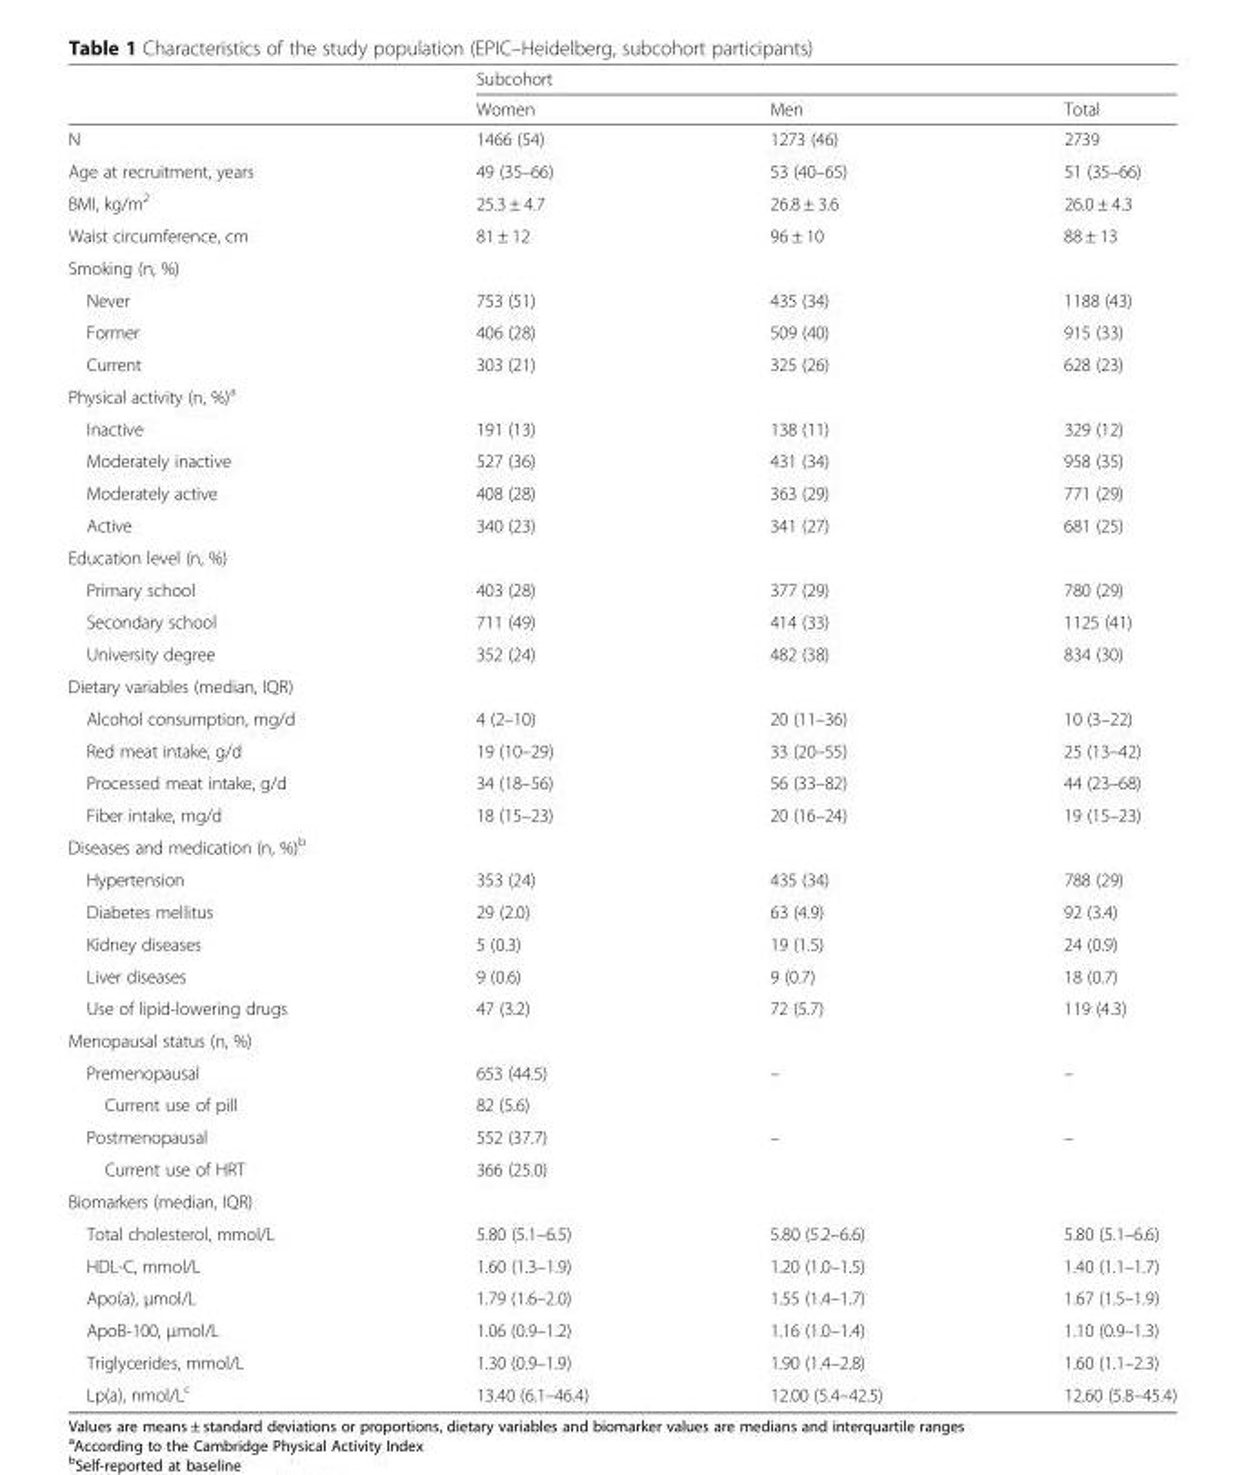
<table><thead><tr><td rowspan="2"></td><td colspan="3">Subcohort</td></tr><tr><td>Women</td><td>Men</td><td>Total</td></tr></thead><tbody><tr><td>N</td><td>1466 (54)</td><td>1273 (46)</td><td>2739</td></tr><tr><td>Age at recruitment, years</td><td>49 (35–66)</td><td>53 (40–65)</td><td>51 (35–66)</td></tr><tr><td>BMI, kg/m<sup>2</sup></td><td>25.3 ± 4.7</td><td>26.8 ± 3.6</td><td>26.0 ± 4.3</td></tr><tr><td>Waist circumference, cm</td><td>81 ± 12</td><td>96 ± 10</td><td>88 ± 13</td></tr><tr><td colspan="4">Smoking (n, %)</td></tr><tr><td>Never</td><td>753 (51)</td><td>435 (34)</td><td>1188 (43)</td></tr><tr><td>Former</td><td>406 (28)</td><td>509 (40)</td><td>915 (33)</td></tr><tr><td>Current</td><td>303 (21)</td><td>325 (26)</td><td>628 (23)</td></tr><tr><td colspan="4">Physical activity (n, %)<sup>a</sup></td></tr><tr><td>Inactive</td><td>191 (13)</td><td>138 (11)</td><td>329 (12)</td></tr><tr><td>Moderately inactive</td><td>527 (36)</td><td>431 (34)</td><td>958 (35)</td></tr><tr><td>Moderately active</td><td>408 (28)</td><td>363 (29)</td><td>771 (29)</td></tr><tr><td>Active</td><td>340 (23)</td><td>341 (27)</td><td>681 (25)</td></tr><tr><td colspan="4">Education level (n, %)</td></tr><tr><td>Primary school</td><td>403 (28)</td><td>377 (29)</td><td>780 (29)</td></tr><tr><td>Secondary school</td><td>711 (49)</td><td>414 (33)</td><td>1125 (41)</td></tr><tr><td>University degree</td><td>352 (24)</td><td>482 (38)</td><td>834 (30)</td></tr><tr><td colspan="4">Dietary variables (median, IQR)</td></tr><tr><td>Alcohol consumption, mg/d</td><td>4 (2–10)</td><td>20 (11–36)</td><td>10 (3–22)</td></tr><tr><td>Red meat intake, g/d</td><td>19 (10–29)</td><td>33 (20–55)</td><td>25 (13–42)</td></tr><tr><td>Processed meat intake, g/d</td><td>34 (18–56)</td><td>56 (33–82)</td><td>44 (23–68)</td></tr><tr><td>Fiber intake, mg/d</td><td>18 (15–23)</td><td>20 (16–24)</td><td>19 (15–23)</td></tr><tr><td colspan="4">Diseases and medication (n, %)<sup>b</sup></td></tr><tr><td>Hypertension</td><td>353 (24)</td><td>435 (34)</td><td>788 (29)</td></tr><tr><td>Diabetes mellitus</td><td>29 (2.0)</td><td>63 (4.9)</td><td>92 (3.4)</td></tr><tr><td>Kidney diseases</td><td>5 (0.3)</td><td>19 (1.5)</td><td>24 (0.9)</td></tr><tr><td>Liver diseases</td><td>9 (0.6)</td><td>9 (0.7)</td><td>18 (0.7)</td></tr><tr><td>Use of lipid-lowering drugs</td><td>47 (3.2)</td><td>72 (5.7)</td><td>119 (4.3)</td></tr><tr><td colspan="4">Menopausal status (n, %)</td></tr><tr><td>Premenopausal</td><td>653 (44.5)</td><td>–</td><td>–</td></tr><tr><td>Current use of pill</td><td>82 (5.6)</td><td></td><td></td></tr><tr><td>Postmenopausal</td><td>552 (37.7)</td><td>–</td><td>–</td></tr><tr><td>Current use of HRT</td><td>366 (25.0)</td><td></td><td></td></tr><tr><td colspan="4">Biomarkers (median, IQR)</td></tr><tr><td>Total cholesterol, mmol/L</td><td>5.80 (5.1–6.5)</td><td>5.80 (5.2–6.6)</td><td>5.80 (5.1–6.6)</td></tr><tr><td>HDL-C, mmol/L</td><td>1.60 (1.3–1.9)</td><td>1.20 (1.0–1.5)</td><td>1.40 (1.1–1.7)</td></tr><tr><td>Apo(a), μmol/L</td><td>1.79 (1.6–2.0)</td><td>1.55 (1.4–1.7)</td><td>1.67 (1.5–1.9)</td></tr><tr><td>ApoB-100, μmol/L</td><td>1.06 (0.9–1.2)</td><td>1.16 (1.0–1.4)</td><td>1.10 (0.9–1.3)</td></tr><tr><td>Triglycerides, mmol/L</td><td>1.30 (0.9–1.9)</td><td>1.90 (1.4–2.8)</td><td>1.60 (1.1–2.3)</td></tr><tr><td>Lp(a), nmol/L<sup>c</sup></td><td>13.40 (6.1–46.4)</td><td>12.00 (5.4–42.5)</td><td>12.60 (5.8–45.4)</td></tr></tbody></table>